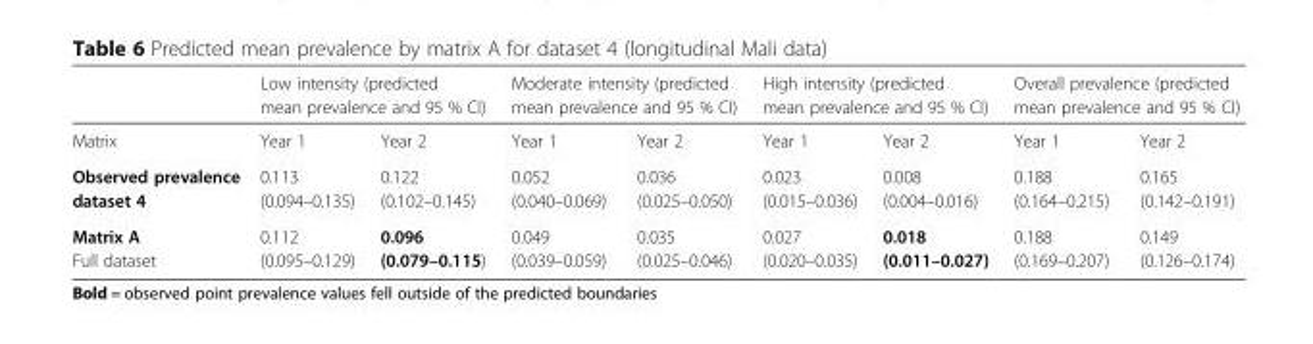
<table><thead><tr><td rowspan="2">Matrix</td><td colspan="2">Low intensity (predicted mean prevalence and 95 % CI)</td><td colspan="2">Moderate intensity (predicted mean prevalence and 95 % CI)</td><td colspan="2">High intensity (predicted mean prevalence and 95 % CI)</td><td colspan="2">Overall prevalence (predicted mean prevalence and 95 % CI)</td></tr><tr><td>Year 1</td><td>Year 2</td><td>Year 1</td><td>Year 2</td><td>Year 1</td><td>Year 2</td><td>Year 1</td><td>Year 2</td></tr></thead><tbody><tr><td>Observed prevalence dataset 4</td><td>0.113 (0.094–0.135)</td><td>0.122 (0.102–0.145)</td><td>0.052 (0.040–0.069)</td><td>0.036 (0.025–0.050)</td><td>0.023 (0.015–0.036)</td><td>0.008 (0.004–0.016)</td><td>0.188 (0.164–0.215)</td><td>0.165 (0.142–0.191)</td></tr><tr><td>Matrix A Full dataset</td><td>0.112 (0.095–0.129)</td><td>0.096 (0.079–0.115)</td><td>0.049 (0.039–0.059)</td><td>0.035 (0.025–0.046)</td><td>0.027 (0.020–0.035)</td><td>0.018 (0.011–0.027)</td><td>0.188 (0.169–0.207)</td><td>0.149 (0.126–0.174)</td></tr></tbody></table>